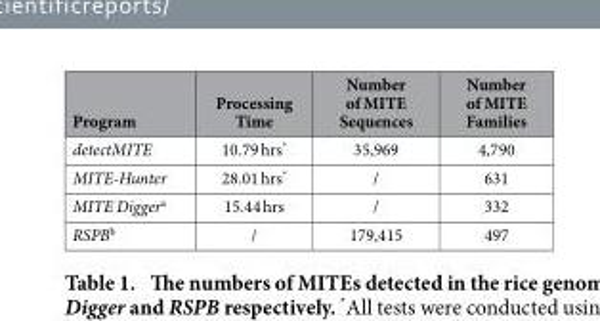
<table><thead><tr><td>Program</td><td>Processing Time</td><td>Number of MITE Sequences</td><td>Number of MITE Families</td></tr></thead><tbody><tr><td>detectMITE</td><td>10.79 hrs*</td><td>35,969</td><td>4,790</td></tr><tr><td>MITE-Hunter</td><td>28.01 hrs*</td><td>/</td><td>631</td></tr><tr><td>MITE Digger<sup>a</sup></td><td>15.44 hrs</td><td>/</td><td>332</td></tr><tr><td>RSPB<sup>b</sup></td><td>/</td><td>179,415</td><td>497</td></tr></tbody></table>